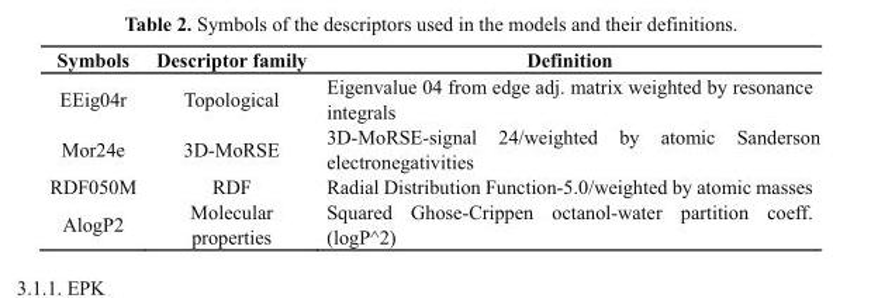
<table><thead><tr><td>Symbols</td><td>Descriptor family</td><td>Definition</td></tr></thead><tbody><tr><td>EEig04r</td><td>Topological</td><td>Eigenvalue 04 from edge adj. matrix weighted by resonance integrals</td></tr><tr><td>Mor24e</td><td>3D-MoRSE</td><td>3D-MoRSE-signal 24/weighted by atomic Sanderson electronegativities</td></tr><tr><td>RDF050M</td><td>RDF</td><td>Radial Distribution Function-5.0/weighted by atomic masses</td></tr><tr><td>AlogP2</td><td>Molecular properties</td><td>Squared Ghose-Crippen octanol-water partition coeff. (logP^2)</td></tr></tbody></table>